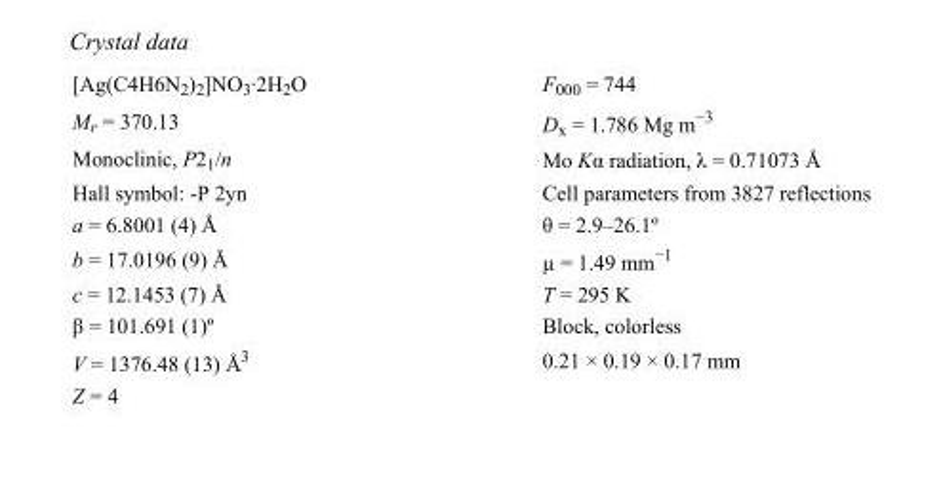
<table><tbody><tr><td>[Ag(C4H6N<sub>2</sub>)<sub>2</sub>]NO<sub>3</sub>·2H<sub>2</sub>O</td><td>F000 = 744</td></tr><tr><td>M<sub>r</sub> = 370.13</td><td>D<sub>x</sub> = 1.786 Mg m<sup>−3</sup></td></tr><tr><td>Monoclinic, P2<sub>1</sub>/n</td><td>Mo Kα radiation, λ = 0.71073 Å</td></tr><tr><td>Hall symbol: -P 2yn</td><td>Cell parameters from 3827 reflections</td></tr><tr><td>a = 6.8001 (4) Å</td><td>θ = 2.9–26.1º</td></tr><tr><td>b = 17.0196 (9) Å</td><td>µ = 1.49 mm<sup>−1</sup></td></tr><tr><td>c = 12.1453 (7) Å</td><td>T = 295 K</td></tr><tr><td>β = 101.691 (1)º</td><td>Block, colorless</td></tr><tr><td>V = 1376.48 (13) Å<sup>3</sup></td><td>0.21 × 0.19 × 0.17 mm</td></tr><tr><td>Z = 4</td><td></td></tr></tbody></table>